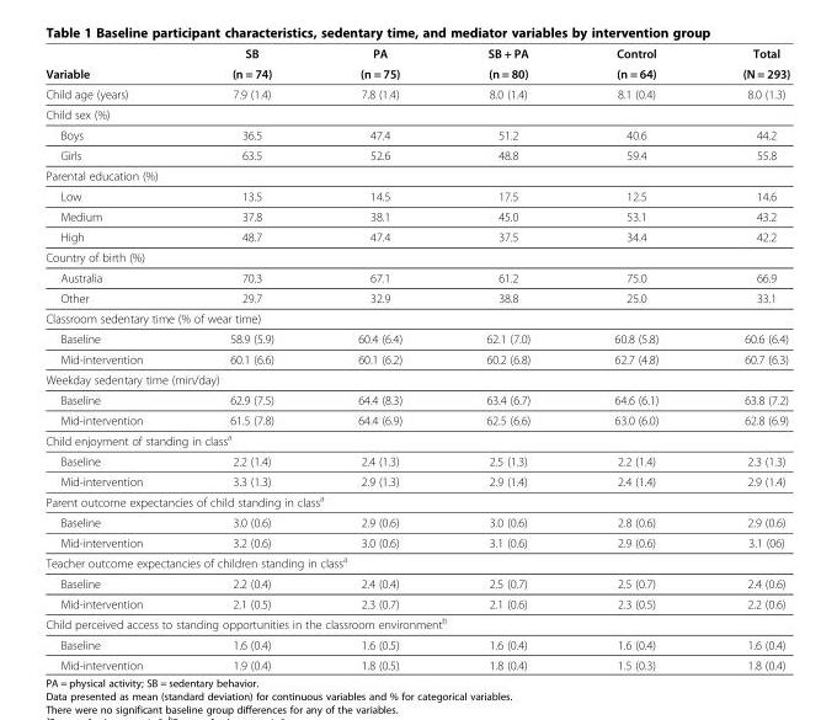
<table><thead><tr><td rowspan="2">Variable</td><td rowspan="2">SB (n = 74)</td><td rowspan="2">PA (n = 75)</td><td rowspan="2">SB + PA (n = 80)</td><td rowspan="2">Control (n = 64)</td><td rowspan="2">Total (N = 293)</td></tr><tr></tr></thead><tbody><tr><td>Child age (years)</td><td>7.9 (1.4)</td><td>7.8 (1.4)</td><td>8.0 (1.4)</td><td>8.1 (0.4)</td><td>8.0 (1.3)</td></tr><tr><td colspan="6">Child sex (%)</td></tr><tr><td>Boys</td><td>36.5</td><td>47.4</td><td>51.2</td><td>40.6</td><td>44.2</td></tr><tr><td>Girls</td><td>63.5</td><td>52.6</td><td>48.8</td><td>59.4</td><td>55.8</td></tr><tr><td colspan="6">Parental education (%)</td></tr><tr><td>Low</td><td>13.5</td><td>14.5</td><td>17.5</td><td>12.5</td><td>14.6</td></tr><tr><td>Medium</td><td>37.8</td><td>38.1</td><td>45.0</td><td>53.1</td><td>43.2</td></tr><tr><td>High</td><td>48.7</td><td>47.4</td><td>37.5</td><td>34.4</td><td>42.2</td></tr><tr><td colspan="6">Country of birth (%)</td></tr><tr><td>Australia</td><td>70.3</td><td>67.1</td><td>61.2</td><td>75.0</td><td>66.9</td></tr><tr><td>Other</td><td>29.7</td><td>32.9</td><td>38.8</td><td>25.0</td><td>33.1</td></tr><tr><td colspan="6">Classroom sedentary time (% of wear time)</td></tr><tr><td>Baseline</td><td>58.9 (5.9)</td><td>60.4 (6.4)</td><td>62.1 (7.0)</td><td>60.8 (5.8)</td><td>60.6 (6.4)</td></tr><tr><td>Mid-intervention</td><td>60.1 (6.6)</td><td>60.1 (6.2)</td><td>60.2 (6.8)</td><td>62.7 (4.8)</td><td>60.7 (6.3)</td></tr><tr><td colspan="6">Weekday sedentary time (min/day)</td></tr><tr><td>Baseline</td><td>62.9 (7.5)</td><td>64.4 (8.3)</td><td>63.4 (6.7)</td><td>64.6 (6.1)</td><td>63.8 (7.2)</td></tr><tr><td>Mid-intervention</td><td>61.5 (7.8)</td><td>64.4 (6.9)</td><td>62.5 (6.6)</td><td>63.0 (6.0)</td><td>62.8 (6.9)</td></tr><tr><td colspan="6">Child enjoyment of standing in class<sup>a</sup></td></tr><tr><td>Baseline</td><td>2.2 (1.4)</td><td>2.4 (1.3)</td><td>2.5 (1.3)</td><td>2.2 (1.4)</td><td>2.3 (1.3)</td></tr><tr><td>Mid-intervention</td><td>3.3 (1.3)</td><td>2.9 (1.3)</td><td>2.9 (1.4)</td><td>2.4 (1.4)</td><td>2.9 (1.4)</td></tr><tr><td colspan="6">Parent outcome expectancies of child standing in class<sup>a</sup></td></tr><tr><td>Baseline</td><td>3.0 (0.6)</td><td>2.9 (0.6)</td><td>3.0 (0.6)</td><td>2.8 (0.6)</td><td>2.9 (0.6)</td></tr><tr><td>Mid-intervention</td><td>3.2 (0.6)</td><td>3.0 (0.6)</td><td>3.1 (0.6)</td><td>2.9 (0.6)</td><td>3.1 (06)</td></tr><tr><td colspan="6">Teacher outcome expectancies of children standing in class<sup>a</sup></td></tr><tr><td>Baseline</td><td>2.2 (0.4)</td><td>2.4 (0.4)</td><td>2.5 (0.7)</td><td>2.5 (0.7)</td><td>2.4 (0.6)</td></tr><tr><td>Mid-intervention</td><td>2.1 (0.5)</td><td>2.3 (0.7)</td><td>2.1 (0.6)</td><td>2.3 (0.5)</td><td>2.2 (0.6)</td></tr><tr><td colspan="6">Child perceived access to standing opportunities in the classroom environment<sup>b</sup></td></tr><tr><td>Baseline</td><td>1.6 (0.4)</td><td>1.6 (0.5)</td><td>1.6 (0.4)</td><td>1.6 (0.4)</td><td>1.6 (0.4)</td></tr><tr><td>Mid-intervention</td><td>1.9 (0.4)</td><td>1.8 (0.5)</td><td>1.8 (0.4)</td><td>1.5 (0.3)</td><td>1.8 (0.4)</td></tr></tbody></table>